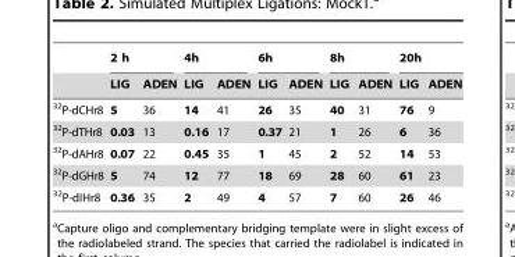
<table><thead><tr><td rowspan="2"></td><td colspan="2">2 h</td><td colspan="2">4h</td><td colspan="2">6h</td><td colspan="2">8h</td><td colspan="2">20h</td></tr><tr><td>LIG</td><td>ADEN</td><td>LIG</td><td>ADEN</td><td>LIG</td><td>ADEN</td><td>LIG</td><td>ADEN</td><td>LIG</td><td>ADEN</td></tr></thead><tbody><tr><td><sup>32</sup>P-dCHr8</td><td>5</td><td>36</td><td>14</td><td>41</td><td>26</td><td>35</td><td>40</td><td>31</td><td>76</td><td>9</td></tr><tr><td><sup>32</sup>P-dTHr8</td><td>0.03</td><td>13</td><td>0.16</td><td>17</td><td>0.37</td><td>21</td><td>1</td><td>26</td><td>6</td><td>36</td></tr><tr><td><sup>32</sup>P-dAHr8</td><td>0.07</td><td>22</td><td>0.45</td><td>35</td><td>1</td><td>45</td><td>2</td><td>52</td><td>14</td><td>53</td></tr><tr><td><sup>32</sup>P-dGHr8</td><td>5</td><td>74</td><td>12</td><td>77</td><td>18</td><td>69</td><td>28</td><td>60</td><td>61</td><td>23</td></tr><tr><td><sup>32</sup>P-dIHr8</td><td>0.36</td><td>35</td><td>2</td><td>49</td><td>4</td><td>57</td><td>7</td><td>60</td><td>26</td><td>46</td></tr></tbody></table>